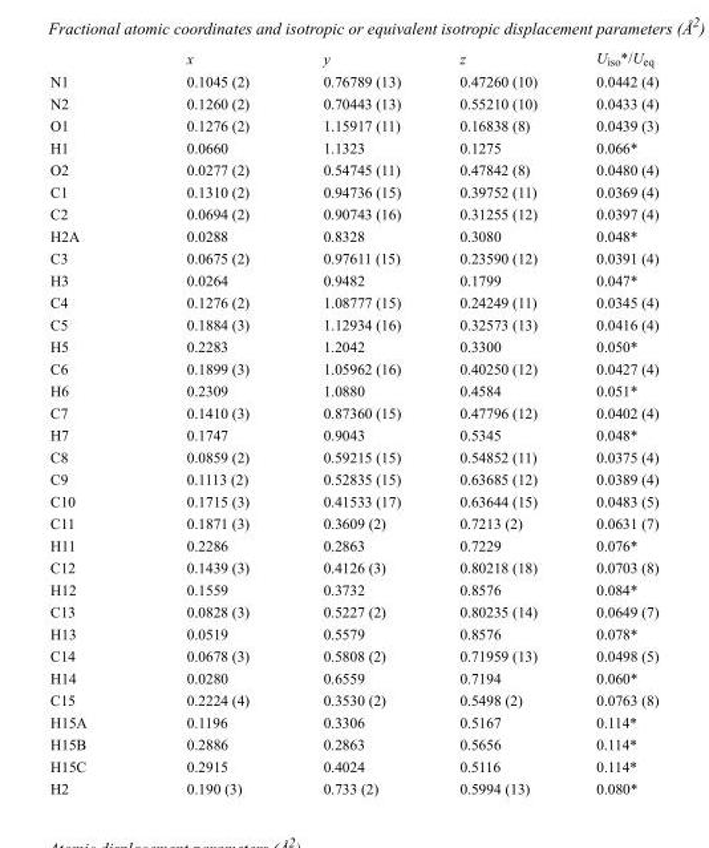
<table><thead><tr><td></td><td>x</td><td>y</td><td>z</td><td>U<sub>iso</sub>*/U<sub>eq</sub></td></tr></thead><tbody><tr><td>N1</td><td>0.1045 (2)</td><td>0.76789 (13)</td><td>0.47260 (10)</td><td>0.0442 (4)</td></tr><tr><td>N2</td><td>0.1260 (2)</td><td>0.70443 (13)</td><td>0.55210 (10)</td><td>0.0433 (4)</td></tr><tr><td>O1</td><td>0.1276 (2)</td><td>1.15917 (11)</td><td>0.16838 (8)</td><td>0.0439 (3)</td></tr><tr><td>H1</td><td>0.0660</td><td>1.1323</td><td>0.1275</td><td>0.066*</td></tr><tr><td>O2</td><td>0.0277 (2)</td><td>0.54745 (11)</td><td>0.47842 (8)</td><td>0.0480 (4)</td></tr><tr><td>C1</td><td>0.1310 (2)</td><td>0.94736 (15)</td><td>0.39752 (11)</td><td>0.0369 (4)</td></tr><tr><td>C2</td><td>0.0694 (2)</td><td>0.90743 (16)</td><td>0.31255 (12)</td><td>0.0397 (4)</td></tr><tr><td>H2A</td><td>0.0288</td><td>0.8328</td><td>0.3080</td><td>0.048*</td></tr><tr><td>C3</td><td>0.0675 (2)</td><td>0.97611 (15)</td><td>0.23590 (12)</td><td>0.0391 (4)</td></tr><tr><td>H3</td><td>0.0264</td><td>0.9482</td><td>0.1799</td><td>0.047*</td></tr><tr><td>C4</td><td>0.1276 (2)</td><td>1.08777 (15)</td><td>0.24249 (11)</td><td>0.0345 (4)</td></tr><tr><td>C5</td><td>0.1884 (3)</td><td>1.12934 (16)</td><td>0.32573 (13)</td><td>0.0416 (4)</td></tr><tr><td>H5</td><td>0.2283</td><td>1.2042</td><td>0.3300</td><td>0.050*</td></tr><tr><td>C6</td><td>0.1899 (3)</td><td>1.05962 (16)</td><td>0.40250 (12)</td><td>0.0427 (4)</td></tr><tr><td>H6</td><td>0.2309</td><td>1.0880</td><td>0.4584</td><td>0.051*</td></tr><tr><td>C7</td><td>0.1410 (3)</td><td>0.87360 (15)</td><td>0.47796 (12)</td><td>0.0402 (4)</td></tr><tr><td>H7</td><td>0.1747</td><td>0.9043</td><td>0.5345</td><td>0.048*</td></tr><tr><td>C8</td><td>0.0859 (2)</td><td>0.59215 (15)</td><td>0.54852 (11)</td><td>0.0375 (4)</td></tr><tr><td>C9</td><td>0.1113 (2)</td><td>0.52835 (15)</td><td>0.63685 (12)</td><td>0.0389 (4)</td></tr><tr><td>C10</td><td>0.1715 (3)</td><td>0.41533 (17)</td><td>0.63644 (15)</td><td>0.0483 (5)</td></tr><tr><td>C11</td><td>0.1871 (3)</td><td>0.3609 (2)</td><td>0.7213 (2)</td><td>0.0631 (7)</td></tr><tr><td>H11</td><td>0.2286</td><td>0.2863</td><td>0.7229</td><td>0.076*</td></tr><tr><td>C12</td><td>0.1439 (3)</td><td>0.4126 (3)</td><td>0.80218 (18)</td><td>0.0703 (8)</td></tr><tr><td>H12</td><td>0.1559</td><td>0.3732</td><td>0.8576</td><td>0.084*</td></tr><tr><td>C13</td><td>0.0828 (3)</td><td>0.5227 (2)</td><td>0.80235 (14)</td><td>0.0649 (7)</td></tr><tr><td>H13</td><td>0.0519</td><td>0.5579</td><td>0.8576</td><td>0.078*</td></tr><tr><td>C14</td><td>0.0678 (3)</td><td>0.5808 (2)</td><td>0.71959 (13)</td><td>0.0498 (5)</td></tr><tr><td>H14</td><td>0.0280</td><td>0.6559</td><td>0.7194</td><td>0.060*</td></tr><tr><td>C15</td><td>0.2224 (4)</td><td>0.3530 (2)</td><td>0.5498 (2)</td><td>0.0763 (8)</td></tr><tr><td>H15A</td><td>0.1196</td><td>0.3306</td><td>0.5167</td><td>0.114*</td></tr><tr><td>H15B</td><td>0.2886</td><td>0.2863</td><td>0.5656</td><td>0.114*</td></tr><tr><td>H15C</td><td>0.2915</td><td>0.4024</td><td>0.5116</td><td>0.114*</td></tr><tr><td>H2</td><td>0.190 (3)</td><td>0.733 (2)</td><td>0.5994 (13)</td><td>0.080*</td></tr></tbody></table>